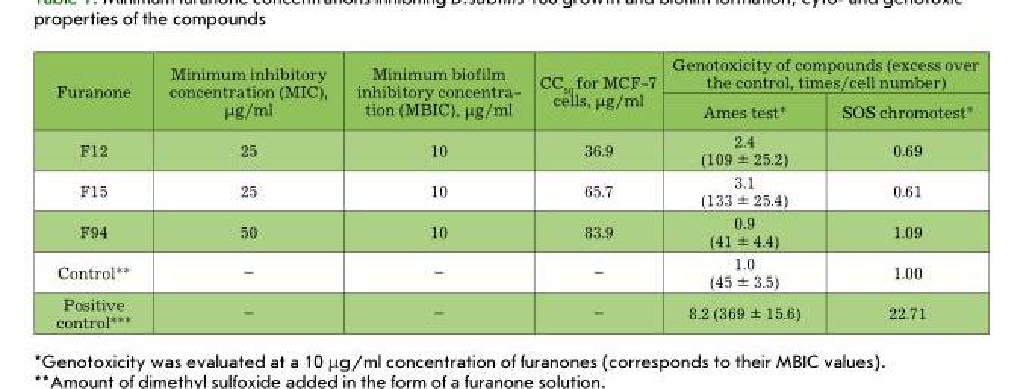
<table><thead><tr><td rowspan="2">Furanone</td><td rowspan="2">Minimum inhibitory concentration (MIC), μg/ml</td><td rowspan="2">Minimum biofilm inhibitory concentra- tion (MBIC), μg/ml</td><td rowspan="2">CC<sub>50</sub> for MCF-7 cells, μg/ml</td><td colspan="2">Genotoxicity of compounds (excess over the control, times/cell number)</td></tr><tr><td>Ames test*</td><td>SOS chromotest*</td></tr></thead><tbody><tr><td>F12</td><td>25</td><td>10</td><td>36.9</td><td>2.4 (109 ± 25.2)</td><td>0.69</td></tr><tr><td>F15</td><td>25</td><td>10</td><td>65.7</td><td>3.1 (133 ± 25.4)</td><td>0.61</td></tr><tr><td>F94</td><td>50</td><td>10</td><td>83.9</td><td>0.9 (41 ± 4.4)</td><td>1.09</td></tr><tr><td>Control**</td><td>–</td><td>–</td><td>–</td><td>1.0 (45 ± 3.5)</td><td>1.00</td></tr><tr><td>Positive control***</td><td>–</td><td>–</td><td>–</td><td>8.2 (369 ± 15.6)</td><td>22.71</td></tr></tbody></table>